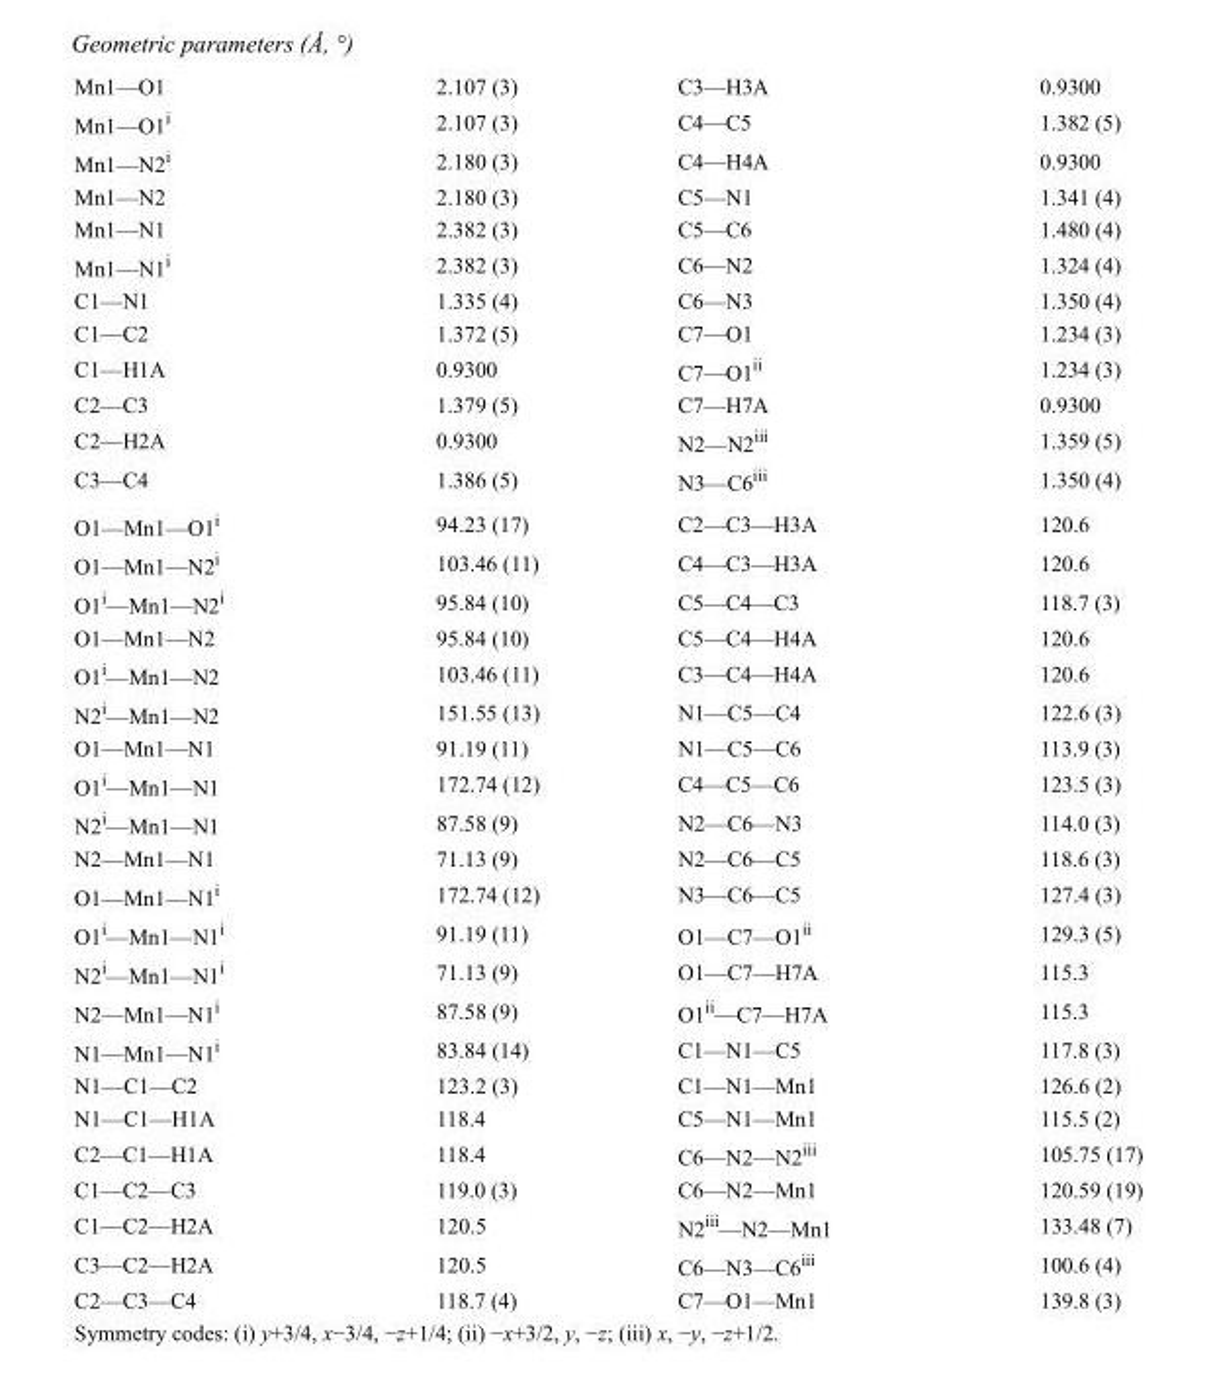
<table><tbody><tr><td>Mn1—O1</td><td>2.107 (3)</td><td>C3—H3A</td><td>0.9300</td></tr><tr><td>Mn1—O1<sup>i</sup></td><td>2.107 (3)</td><td>C4—C5</td><td>1.382 (5)</td></tr><tr><td>Mn1—N2<sup>i</sup></td><td>2.180 (3)</td><td>C4—H4A</td><td>0.9300</td></tr><tr><td>Mn1—N2</td><td>2.180 (3)</td><td>C5—N1</td><td>1.341 (4)</td></tr><tr><td>Mn1—N1</td><td>2.382 (3)</td><td>C5—C6</td><td>1.480 (4)</td></tr><tr><td>Mn1—N1<sup>i</sup></td><td>2.382 (3)</td><td>C6—N2</td><td>1.324 (4)</td></tr><tr><td>C1—N1</td><td>1.335 (4)</td><td>C6—N3</td><td>1.350 (4)</td></tr><tr><td>C1—C2</td><td>1.372 (5)</td><td>C7—O1</td><td>1.234 (3)</td></tr><tr><td>C1—H1A</td><td>0.9300</td><td>C7—O1<sup>ii</sup></td><td>1.234 (3)</td></tr><tr><td>C2—C3</td><td>1.379 (5)</td><td>C7—H7A</td><td>0.9300</td></tr><tr><td>C2—H2A</td><td>0.9300</td><td>N2—N2<sup>iii</sup></td><td>1.359 (5)</td></tr><tr><td>C3—C4</td><td>1.386 (5)</td><td>N3—C6<sup>iii</sup></td><td>1.350 (4)</td></tr><tr><td>O1—Mn1—O1<sup>i</sup></td><td>94.23 (17)</td><td>C2—C3—H3A</td><td>120.6</td></tr><tr><td>O1—Mn1—N2<sup>i</sup></td><td>103.46 (11)</td><td>C4—C3—H3A</td><td>120.6</td></tr><tr><td>O1<sup>i</sup>—Mn1—N2<sup>i</sup></td><td>95.84 (10)</td><td>C5—C4—C3</td><td>118.7 (3)</td></tr><tr><td>O1—Mn1—N2</td><td>95.84 (10)</td><td>C5—C4—H4A</td><td>120.6</td></tr><tr><td>O1<sup>i</sup>—Mn1—N2</td><td>103.46 (11)</td><td>C3—C4—H4A</td><td>120.6</td></tr><tr><td>N2<sup>i</sup>—Mn1—N2</td><td>151.55 (13)</td><td>N1—C5—C4</td><td>122.6 (3)</td></tr><tr><td>O1—Mn1—N1</td><td>91.19 (11)</td><td>N1—C5—C6</td><td>113.9 (3)</td></tr><tr><td>O1<sup>i</sup>—Mn1—N1</td><td>172.74 (12)</td><td>C4—C5—C6</td><td>123.5 (3)</td></tr><tr><td>N2<sup>i</sup>—Mn1—N1</td><td>87.58 (9)</td><td>N2—C6—N3</td><td>114.0 (3)</td></tr><tr><td>N2—Mn1—N1</td><td>71.13 (9)</td><td>N2—C6—C5</td><td>118.6 (3)</td></tr><tr><td>O1—Mn1—N1<sup>i</sup></td><td>172.74 (12)</td><td>N3—C6—C5</td><td>127.4 (3)</td></tr><tr><td>O1<sup>i</sup>—Mn1—N1<sup>i</sup></td><td>91.19 (11)</td><td>O1—C7—O1<sup>ii</sup></td><td>129.3 (5)</td></tr><tr><td>N2<sup>i</sup>—Mn1—N1<sup>i</sup></td><td>71.13 (9)</td><td>O1—C7—H7A</td><td>115.3</td></tr><tr><td>N2—Mn1—N1<sup>i</sup></td><td>87.58 (9)</td><td>O1<sup>ii</sup>—C7—H7A</td><td>115.3</td></tr><tr><td>N1—Mn1—N1<sup>i</sup></td><td>83.84 (14)</td><td>C1—N1—C5</td><td>117.8 (3)</td></tr><tr><td>N1—C1—C2</td><td>123.2 (3)</td><td>C1—N1—Mn1</td><td>126.6 (2)</td></tr><tr><td>N1—C1—H1A</td><td>118.4</td><td>C5—N1—Mn1</td><td>115.5 (2)</td></tr><tr><td>C2—C1—H1A</td><td>118.4</td><td>C6—N2—N2<sup>iii</sup></td><td>105.75 (17)</td></tr><tr><td>C1—C2—C3</td><td>119.0 (3)</td><td>C6—N2—Mn1</td><td>120.59 (19)</td></tr><tr><td>C1—C2—H2A</td><td>120.5</td><td>N2<sup>iii</sup>—N2—Mn1</td><td>133.48 (7)</td></tr><tr><td>C3—C2—H2A</td><td>120.5</td><td>C6—N3—C6<sup>iii</sup></td><td>100.6 (4)</td></tr><tr><td>C2—C3—C4</td><td>118.7 (4)</td><td>C7—O1—Mn1</td><td>139.8 (3)</td></tr></tbody></table>